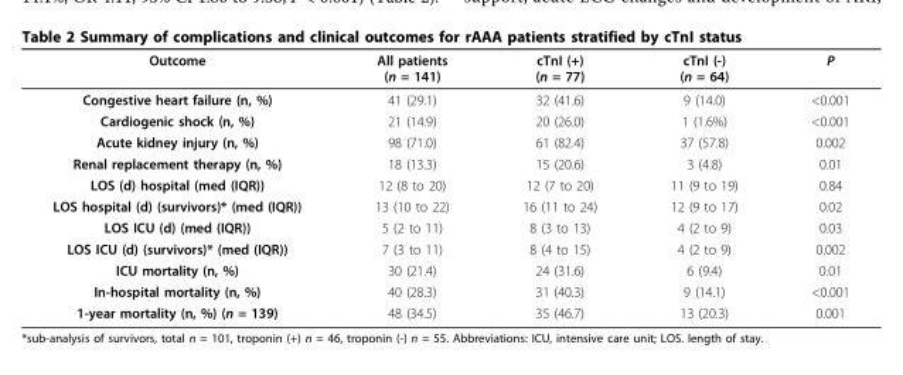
<table><thead><tr><td>Outcome</td><td>All patients (n = 141)</td><td>cTnI (+) (n = 77)</td><td>cTnI (-) (n = 64)</td><td>P</td></tr></thead><tbody><tr><td>Congestive heart failure (n, %)</td><td>41 (29.1)</td><td>32 (41.6)</td><td>9 (14.0)</td><td>&lt;0.001</td></tr><tr><td>Cardiogenic shock (n, %)</td><td>21 (14.9)</td><td>20 (26.0)</td><td>1 (1.6%)</td><td>&lt;0.001</td></tr><tr><td>Acute kidney injury (n, %)</td><td>98 (71.0)</td><td>61 (82.4)</td><td>37 (57.8)</td><td>0.002</td></tr><tr><td>Renal replacement therapy (n, %)</td><td>18 (13.3)</td><td>15 (20.6)</td><td>3 (4.8)</td><td>0.01</td></tr><tr><td>LOS (d) hospital (med (IQR))</td><td>12 (8 to 20)</td><td>12 (7 to 20)</td><td>11 (9 to 19)</td><td>0.84</td></tr><tr><td>LOS hospital (d) (survivors)* (med (IQR))</td><td>13 (10 to 22)</td><td>16 (11 to 24)</td><td>12 (9 to 17)</td><td>0.02</td></tr><tr><td>LOS ICU (d) (med (IQR))</td><td>5 (2 to 11)</td><td>8 (3 to 13)</td><td>4 (2 to 9)</td><td>0.03</td></tr><tr><td>LOS ICU (d) (survivors)* (med (IQR))</td><td>7 (3 to 11)</td><td>8 (4 to 15)</td><td>4 (2 to 9)</td><td>0.002</td></tr><tr><td>ICU mortality (n, %)</td><td>30 (21.4)</td><td>24 (31.6)</td><td>6 (9.4)</td><td>0.01</td></tr><tr><td>In-hospital mortality (n, %)</td><td>40 (28.3)</td><td>31 (40.3)</td><td>9 (14.1)</td><td>&lt;0.001</td></tr><tr><td>1-year mortality (n, %) (n = 139)</td><td>48 (34.5)</td><td>35 (46.7)</td><td>13 (20.3)</td><td>0.001</td></tr></tbody></table>